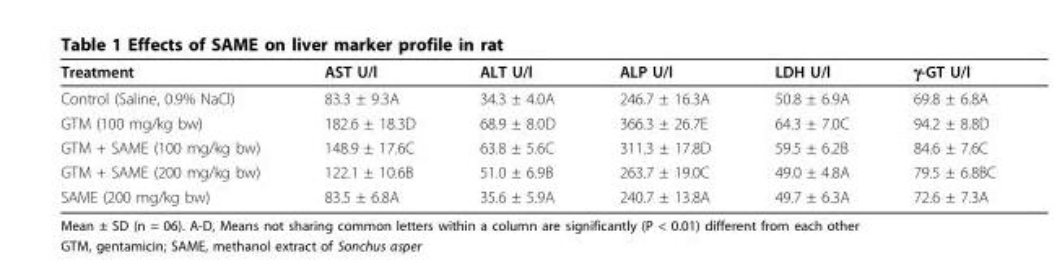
<table><thead><tr><td>Treatment</td><td>AST U/l</td><td>ALT U/l</td><td>ALP U/l</td><td>LDH U/l</td><td>γ-GT U/l</td></tr></thead><tbody><tr><td>Control (Saline, 0.9% NaCl)</td><td>83.3 ± 9.3A</td><td>34.3 ± 4.0A</td><td>246.7 ± 16.3A</td><td>50.8 ± 6.9A</td><td>69.8 ± 6.8A</td></tr><tr><td>GTM (100 mg/kg bw)</td><td>182.6 ± 18.3D</td><td>68.9 ± 8.0D</td><td>366.3 ± 26.7E</td><td>64.3 ± 7.0C</td><td>94.2 ± 8.8D</td></tr><tr><td>GTM + SAME (100 mg/kg bw)</td><td>148.9 ± 17.6C</td><td>63.8 ± 5.6C</td><td>311.3 ± 17.8D</td><td>59.5 ± 6.2B</td><td>84.6 ± 7.6C</td></tr><tr><td>GTM + SAME (200 mg/kg bw)</td><td>122.1 ± 10.6B</td><td>51.0 ± 6.9B</td><td>263.7 ± 19.0C</td><td>49.0 ± 4.8A</td><td>79.5 ± 6.8BC</td></tr><tr><td>SAME (200 mg/kg bw)</td><td>83.5 ± 6.8A</td><td>35.6 ± 5.9A</td><td>240.7 ± 13.8A</td><td>49.7 ± 6.3A</td><td>72.6 ± 7.3A</td></tr></tbody></table>